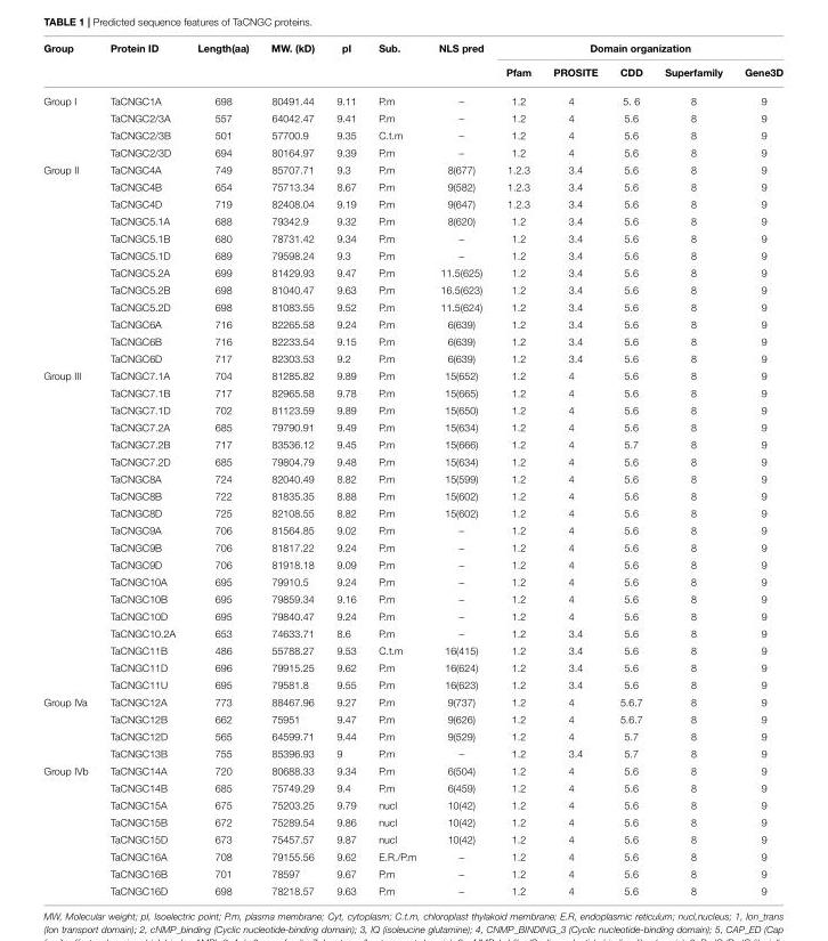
<table><thead><tr><td rowspan="2">Group</td><td rowspan="2">Protein ID</td><td rowspan="2">Length(aa)</td><td rowspan="2">MW. (kD)</td><td rowspan="2">pI</td><td rowspan="2">Sub.</td><td rowspan="2">NLS pred</td><td colspan="5">Domain organization</td></tr><tr><td>Pfam</td><td>PROSITE</td><td>CDD</td><td>Superfamily</td><td>Gene3D</td></tr></thead><tbody><tr><td rowspan="4">Group I</td><td>TaCNGC1A</td><td>698</td><td>80491.44</td><td>9.11</td><td>P.m</td><td>–</td><td>1.2</td><td>4</td><td>5. 6</td><td>8</td><td>9</td></tr><tr><td>TaCNGC2/3A</td><td>557</td><td>64042.47</td><td>9.41</td><td>P.m</td><td>–</td><td>1.2</td><td>4</td><td>5.6</td><td>8</td><td>9</td></tr><tr><td>TaCNGC2/3B</td><td>501</td><td>57700.9</td><td>9.35</td><td>C.t.m</td><td>–</td><td>1.2</td><td>4</td><td>5.6</td><td>8</td><td>9</td></tr><tr><td>TaCNGC2/3D</td><td>694</td><td>80164.97</td><td>9.39</td><td>P.m</td><td>–</td><td>1.2</td><td>4</td><td>5.6</td><td>8</td><td>9</td></tr><tr><td rowspan="12">Group II</td><td>TaCNGC4A</td><td>749</td><td>85707.71</td><td>9.3</td><td>P.m</td><td>8(677)</td><td>1.2.3</td><td>3.4</td><td>5.6</td><td>8</td><td>9</td></tr><tr><td>TaCNGC4B</td><td>654</td><td>75713.34</td><td>8.67</td><td>P.m</td><td>9(582)</td><td>1.2.3</td><td>3.4</td><td>5.6</td><td>8</td><td>9</td></tr><tr><td>TaCNGC4D</td><td>719</td><td>82408.04</td><td>9.19</td><td>P.m</td><td>9(647)</td><td>1.2.3</td><td>3.4</td><td>5.6</td><td>8</td><td>9</td></tr><tr><td>TaCNGC5.1A</td><td>688</td><td>79342.9</td><td>9.32</td><td>P.m</td><td>8(620)</td><td>1.2</td><td>3.4</td><td>5.6</td><td>8</td><td>9</td></tr><tr><td>TaCNGC5.1B</td><td>680</td><td>78731.42</td><td>9.34</td><td>P.m</td><td>–</td><td>1.2</td><td>3.4</td><td>5.6</td><td>8</td><td>9</td></tr><tr><td>TaCNGC5.1D</td><td>689</td><td>79598.24</td><td>9.3</td><td>P.m</td><td>–</td><td>1.2</td><td>3.4</td><td>5.6</td><td>8</td><td>9</td></tr><tr><td>TaCNGC5.2A</td><td>699</td><td>81429.93</td><td>9.47</td><td>P.m</td><td>11.5(625)</td><td>1.2</td><td>3.4</td><td>5.6</td><td>8</td><td>9</td></tr><tr><td>TaCNGC5.2B</td><td>698</td><td>81040.47</td><td>9.63</td><td>P.m</td><td>16.5(623)</td><td>1.2</td><td>3.4</td><td>5.6</td><td>8</td><td>9</td></tr><tr><td>TaCNGC5.2D</td><td>698</td><td>81083.55</td><td>9.52</td><td>P.m</td><td>11.5(624)</td><td>1.2</td><td>3.4</td><td>5.6</td><td>8</td><td>9</td></tr><tr><td>TaCNGC6A</td><td>716</td><td>82265.58</td><td>9.24</td><td>P.m</td><td>6(639)</td><td>1.2</td><td>3.4</td><td>5.6</td><td>8</td><td>9</td></tr><tr><td>TaCNGC6B</td><td>716</td><td>82233.54</td><td>9.15</td><td>P.m</td><td>6(639)</td><td>1.2</td><td>3.4</td><td>5.6</td><td>8</td><td>9</td></tr><tr><td>TaCNGC6D</td><td>717</td><td>82303.53</td><td>9.2</td><td>P.m</td><td>6(639)</td><td>1.2</td><td>3.4</td><td>5.6</td><td>8</td><td>9</td></tr><tr><td rowspan="19">Group III</td><td>TaCNGC7.1A</td><td>704</td><td>81285.82</td><td>9.89</td><td>P.m</td><td>15(652)</td><td>1.2</td><td>4</td><td>5.6</td><td>8</td><td>9</td></tr><tr><td>TaCNGC7.1B</td><td>717</td><td>82965.58</td><td>9.78</td><td>P.m</td><td>15(665)</td><td>1.2</td><td>4</td><td>5.6</td><td>8</td><td>9</td></tr><tr><td>TaCNGC7.1D</td><td>702</td><td>81123.59</td><td>9.89</td><td>P.m</td><td>15(650)</td><td>1.2</td><td>4</td><td>5.6</td><td>8</td><td>9</td></tr><tr><td>TaCNGC7.2A</td><td>685</td><td>79790.91</td><td>9.49</td><td>P.m</td><td>15(634)</td><td>1.2</td><td>4</td><td>5.6</td><td>8</td><td>9</td></tr><tr><td>TaCNGC7.2B</td><td>717</td><td>83536.12</td><td>9.45</td><td>P.m</td><td>15(666)</td><td>1.2</td><td>4</td><td>5.7</td><td>8</td><td>9</td></tr><tr><td>TaCNGC7.2D</td><td>685</td><td>79804.79</td><td>9.48</td><td>P.m</td><td>15(634)</td><td>1.2</td><td>4</td><td>5.6</td><td>8</td><td>9</td></tr><tr><td>TaCNGC8A</td><td>724</td><td>82040.49</td><td>8.82</td><td>P.m</td><td>15(599)</td><td>1.2</td><td>4</td><td>5.6</td><td>8</td><td>9</td></tr><tr><td>TaCNGC8B</td><td>722</td><td>81835.35</td><td>8.88</td><td>P.m</td><td>15(602)</td><td>1.2</td><td>4</td><td>5.6</td><td>8</td><td>9</td></tr><tr><td>TaCNGC8D</td><td>725</td><td>82108.55</td><td>8.82</td><td>P.m</td><td>15(602)</td><td>1.2</td><td>4</td><td>5.6</td><td>8</td><td>9</td></tr><tr><td>TaCNGC9A</td><td>706</td><td>81564.85</td><td>9.02</td><td>P.m</td><td>–</td><td>1.2</td><td>4</td><td>5.6</td><td>8</td><td>9</td></tr><tr><td>TaCNGC9B</td><td>706</td><td>81817.22</td><td>9.24</td><td>P.m</td><td>–</td><td>1.2</td><td>4</td><td>5.6</td><td>8</td><td>9</td></tr><tr><td>TaCNGC9D</td><td>706</td><td>81918.18</td><td>9.09</td><td>P.m</td><td>–</td><td>1.2</td><td>4</td><td>5.6</td><td>8</td><td>9</td></tr><tr><td>TaCNGC10A</td><td>695</td><td>79910.5</td><td>9.24</td><td>P.m</td><td>–</td><td>1.2</td><td>4</td><td>5.6</td><td>8</td><td>9</td></tr><tr><td>TaCNGC10B</td><td>695</td><td>79859.34</td><td>9.16</td><td>P.m</td><td>–</td><td>1.2</td><td>4</td><td>5.6</td><td>8</td><td>9</td></tr><tr><td>TaCNGC10D</td><td>695</td><td>79840.47</td><td>9.24</td><td>P.m</td><td>–</td><td>1.2</td><td>4</td><td>5.6</td><td>8</td><td>9</td></tr><tr><td>TaCNGC10.2A</td><td>653</td><td>74633.71</td><td>8.6</td><td>P.m</td><td>–</td><td>1.2</td><td>3.4</td><td>5.6</td><td>8</td><td>9</td></tr><tr><td>TaCNGC11B</td><td>486</td><td>55788.27</td><td>9.53</td><td>C.t.m</td><td>16(415)</td><td>1.2</td><td>3.4</td><td>5.6</td><td>8</td><td>9</td></tr><tr><td>TaCNGC11D</td><td>696</td><td>79915.25</td><td>9.62</td><td>P.m</td><td>16(624)</td><td>1.2</td><td>3.4</td><td>5.6</td><td>8</td><td>9</td></tr><tr><td>TaCNGC11U</td><td>695</td><td>79581.8</td><td>9.55</td><td>P.m</td><td>16(623)</td><td>1.2</td><td>3.4</td><td>5.6</td><td>8</td><td>9</td></tr><tr><td rowspan="4">Group IVa</td><td>TaCNGC12A</td><td>773</td><td>88467.96</td><td>9.27</td><td>P.m</td><td>9(737)</td><td>1.2</td><td>4</td><td>5.6.7</td><td>8</td><td>9</td></tr><tr><td>TaCNGC12B</td><td>662</td><td>75951</td><td>9.47</td><td>P.m</td><td>9(626)</td><td>1.2</td><td>4</td><td>5.6.7</td><td>8</td><td>9</td></tr><tr><td>TaCNGC12D</td><td>565</td><td>64599.71</td><td>9.44</td><td>P.m</td><td>9(529)</td><td>1.2</td><td>4</td><td>5.7</td><td>8</td><td>9</td></tr><tr><td>TaCNGC13B</td><td>755</td><td>85396.93</td><td>9</td><td>P.m</td><td>–</td><td>1.2</td><td>3.4</td><td>5.7</td><td>8</td><td>9</td></tr><tr><td rowspan="8">Group IVb</td><td>TaCNGC14A</td><td>720</td><td>80688.33</td><td>9.34</td><td>P.m</td><td>6(504)</td><td>1.2</td><td>4</td><td>5.6</td><td>8</td><td>9</td></tr><tr><td>TaCNGC14B</td><td>685</td><td>75749.29</td><td>9.4</td><td>P.m</td><td>6(459)</td><td>1.2</td><td>4</td><td>5.6</td><td>8</td><td>9</td></tr><tr><td>TaCNGC15A</td><td>675</td><td>75203.25</td><td>9.79</td><td>nucl</td><td>10(42)</td><td>1.2</td><td>4</td><td>5.6</td><td>8</td><td>9</td></tr><tr><td>TaCNGC15B</td><td>672</td><td>75289.54</td><td>9.86</td><td>nucl</td><td>10(42)</td><td>1.2</td><td>4</td><td>5.6</td><td>8</td><td>9</td></tr><tr><td>TaCNGC15D</td><td>673</td><td>75457.57</td><td>9.87</td><td>nucl</td><td>10(42)</td><td>1.2</td><td>4</td><td>5.6</td><td>8</td><td>9</td></tr><tr><td>TaCNGC16A</td><td>708</td><td>79155.56</td><td>9.62</td><td>E.R./P.m</td><td>–</td><td>1.2</td><td>4</td><td>5.6</td><td>8</td><td>9</td></tr><tr><td>TaCNGC16B</td><td>701</td><td>78597</td><td>9.67</td><td>P.m</td><td>–</td><td>1.2</td><td>4</td><td>5.6</td><td>8</td><td>9</td></tr><tr><td>TaCNGC16D</td><td>698</td><td>78218.57</td><td>9.63</td><td>P.m</td><td>–</td><td>1.2</td><td>4</td><td>5.6</td><td>8</td><td>9</td></tr></tbody></table>